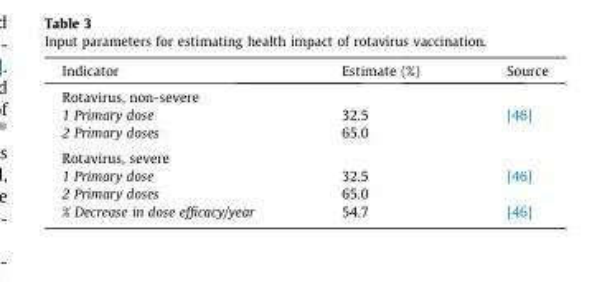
<table><thead><tr><td>Indicator</td><td>Estimate (%)</td><td>Source</td></tr></thead><tbody><tr><td colspan="3">Rotavirus, non-severe</td></tr><tr><td>1 Primary dose</td><td>32.5</td><td>[46]</td></tr><tr><td>2 Primary doses</td><td>65.0</td><td></td></tr><tr><td colspan="3">Rotavirus, severe</td></tr><tr><td>1 Primary dose</td><td>32.5</td><td>[46]</td></tr><tr><td>2 Primary doses</td><td>65.0</td><td></td></tr><tr><td>% Decrease in dose efficacy/year</td><td>54.7</td><td>[46]</td></tr></tbody></table>